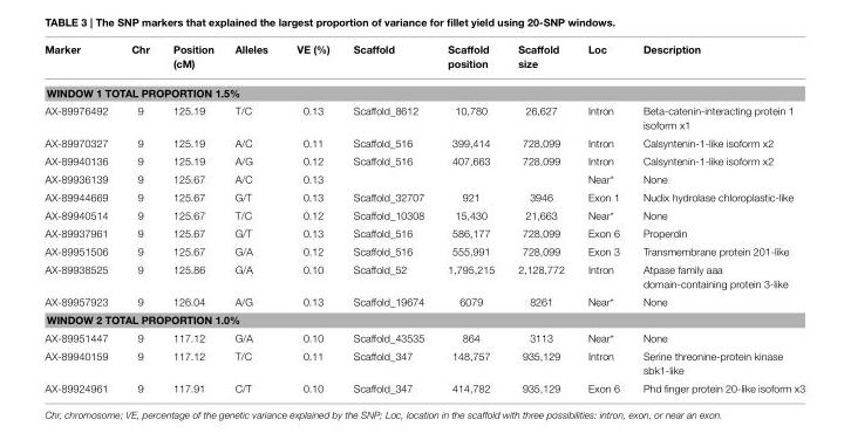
<table><thead><tr><td>Marker</td><td>Chr</td><td>Position (cM)</td><td>Alleles</td><td>VE (%)</td><td>Scaffold</td><td>Scaffold position</td><td>Scaffold size</td><td>Loc</td><td>Description</td></tr></thead><tbody><tr><td colspan="10">WINDOW 1 TOTAL PROPORTION 1.5%</td></tr><tr><td>AX-89976492</td><td>9</td><td>125.19</td><td>T/C</td><td>0.13</td><td>Scaffold_8612</td><td>10,780</td><td>26,627</td><td>Intron</td><td>Beta-catenin-interacting protein 1 isoform x1</td></tr><tr><td>AX-89970327</td><td>9</td><td>125.19</td><td>A/C</td><td>0.11</td><td>Scaffold_516</td><td>399,414</td><td>728,099</td><td>Intron</td><td>Calsyntenin-1-like isoform x2</td></tr><tr><td>AX-89940136</td><td>9</td><td>125.19</td><td>A/G</td><td>0.12</td><td>Scaffold_516</td><td>407,663</td><td>728,099</td><td>Intron</td><td>Calsyntenin-1-like isoform x2</td></tr><tr><td>AX-89936139</td><td>9</td><td>125.67</td><td>A/C</td><td>0.13</td><td></td><td></td><td></td><td>Near*</td><td>None</td></tr><tr><td>AX-89944669</td><td>9</td><td>125.67</td><td>G/T</td><td>0.13</td><td>Scaffold_32707</td><td>921</td><td>3946</td><td>Exon 1</td><td>Nudix hydrolase chloroplastic-like</td></tr><tr><td>AX-89940514</td><td>9</td><td>125.67</td><td>T/C</td><td>0.12</td><td>Scaffold_10308</td><td>15,430</td><td>21,663</td><td>Near*</td><td>None</td></tr><tr><td>AX-89937961</td><td>9</td><td>125.67</td><td>G/T</td><td>0.13</td><td>Scaffold_516</td><td>586,177</td><td>728,099</td><td>Exon 6</td><td>Properdin</td></tr><tr><td>AX-89951506</td><td>9</td><td>125.67</td><td>G/A</td><td>0.12</td><td>Scaffold_516</td><td>555,991</td><td>728,099</td><td>Exon 3</td><td>Transmembrane protein 201-like</td></tr><tr><td>AX-89938525</td><td>9</td><td>125.86</td><td>G/A</td><td>0.10</td><td>Scaffold_52</td><td>1,795,215</td><td>2,128,772</td><td>Intron</td><td>Atpase family aaa domain-containing protein 3-like</td></tr><tr><td>AX-89957923</td><td>9</td><td>126.04</td><td>A/G</td><td>0.13</td><td>Scaffold_19674</td><td>6079</td><td>8261</td><td>Near*</td><td>None</td></tr><tr><td colspan="10">WINDOW 2 TOTAL PROPORTION 1.0%</td></tr><tr><td>AX-89951447</td><td>9</td><td>117.12</td><td>G/A</td><td>0.10</td><td>Scaffold_43535</td><td>864</td><td>3113</td><td>Near*</td><td>None</td></tr><tr><td>AX-89940159</td><td>9</td><td>117.12</td><td>T/C</td><td>0.11</td><td>Scaffold_347</td><td>148,757</td><td>935,129</td><td>Intron</td><td>Serine threonine-protein kinase sbk1-like</td></tr><tr><td>AX-89924961</td><td>9</td><td>117.91</td><td>C/T</td><td>0.10</td><td>Scaffold_347</td><td>414,782</td><td>935,129</td><td>Exon 6</td><td>Phd finger protein 20-like isoform x3</td></tr></tbody></table>